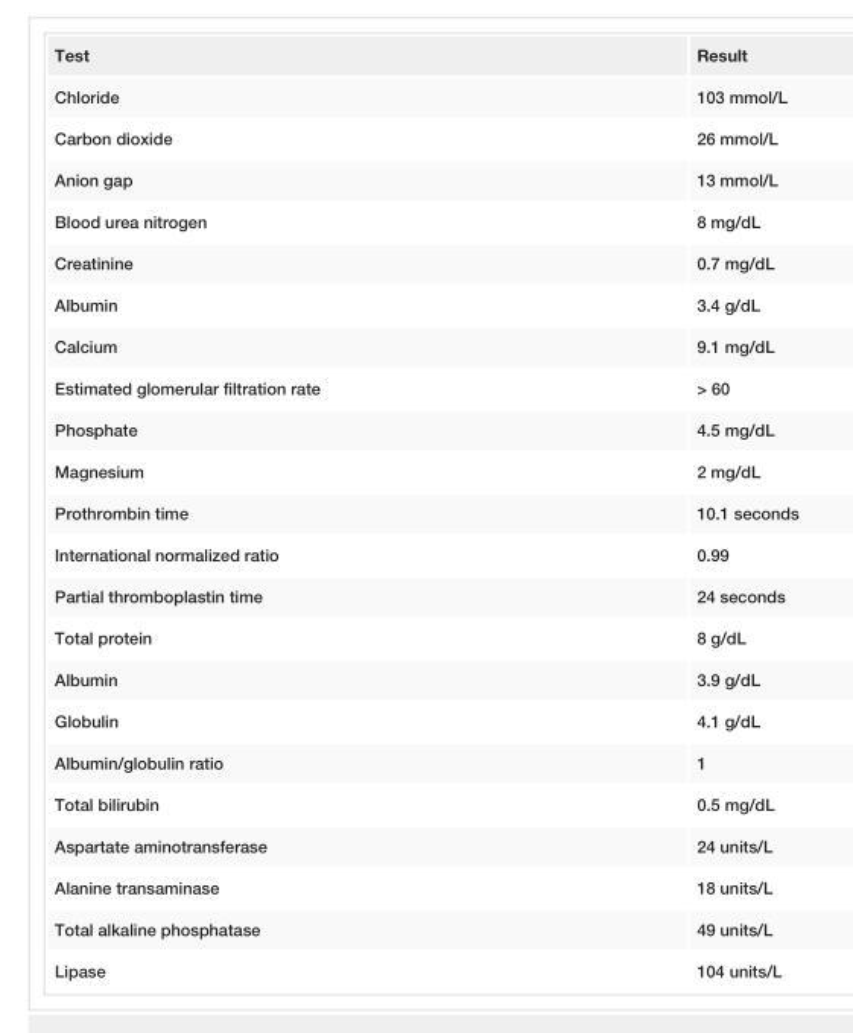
<table><tbody><tr><td>Test</td><td>Result</td></tr><tr><td>Chloride</td><td>103 mmol/L</td></tr><tr><td>Carbon dioxide</td><td>26 mmol/L</td></tr><tr><td>Anion gap</td><td>13 mmol/L</td></tr><tr><td>Blood urea nitrogen</td><td>8 mg/dL</td></tr><tr><td>Creatinine</td><td>0.7 mg/dL</td></tr><tr><td>Albumin</td><td>3.4 g/dL</td></tr><tr><td>Calcium</td><td>9.1 mg/dL</td></tr><tr><td>Estimated glomerular filtration rate</td><td>&gt; 60</td></tr><tr><td>Phosphate</td><td>4.5 mg/dL</td></tr><tr><td>Magnesium</td><td>2 mg/dL</td></tr><tr><td>Prothrombin time</td><td>10.1 seconds</td></tr><tr><td>International normalized ratio</td><td>0.99</td></tr><tr><td>Partial thromboplastin time</td><td>24 seconds</td></tr><tr><td>Total protein</td><td>8 g/dL</td></tr><tr><td>Albumin</td><td>3.9 g/dL</td></tr><tr><td>Globulin</td><td>4.1 g/dL</td></tr><tr><td>Albumin/globulin ratio</td><td>1</td></tr><tr><td>Total bilirubin</td><td>0.5 mg/dL</td></tr><tr><td>Aspartate aminotransferase</td><td>24 units/L</td></tr><tr><td>Alanine transaminase</td><td>18 units/L</td></tr><tr><td>Total alkaline phosphatase</td><td>49 units/L</td></tr><tr><td>Lipase</td><td>104 units/L</td></tr></tbody></table>